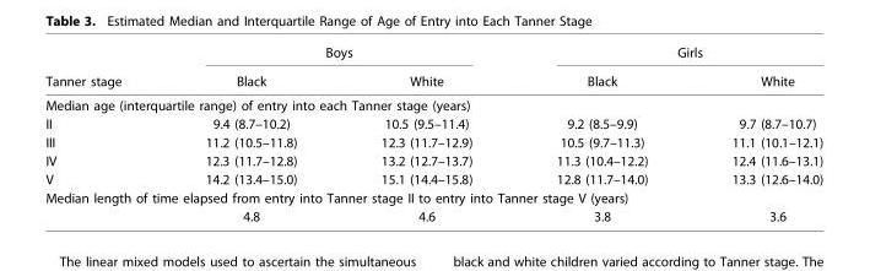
<table><thead><tr><td rowspan="2">Tanner stage</td><td colspan="2">Boys</td><td colspan="2">Girls</td></tr><tr><td>Black</td><td>White</td><td>Black</td><td>White</td></tr></thead><tbody><tr><td colspan="5">Median age (interquartile range) of entry into each Tanner stage (years)</td></tr><tr><td>II</td><td>9.4 (8.7–10.2)</td><td>10.5 (9.5–11.4)</td><td>9.2 (8.5–9.9)</td><td>9.7 (8.7–10.7)</td></tr><tr><td>III</td><td>11.2 (10.5–11.8)</td><td>12.3 (11.7–12.9)</td><td>10.5 (9.7–11.3)</td><td>11.1 (10.1–12.1)</td></tr><tr><td>IV</td><td>12.3 (11.7–12.8)</td><td>13.2 (12.7–13.7)</td><td>11.3 (10.4–12.2)</td><td>12.4 (11.6–13.1)</td></tr><tr><td>V</td><td>14.2 (13.4–15.0)</td><td>15.1 (14.4–15.8)</td><td>12.8 (11.7–14.0)</td><td>13.3 (12.6–14.0)</td></tr><tr><td colspan="5">Median length of time elapsed from entry into Tanner stage II to entry into Tanner stage V (years)</td></tr><tr><td></td><td>4.8</td><td>4.6</td><td>3.8</td><td>3.6</td></tr></tbody></table>